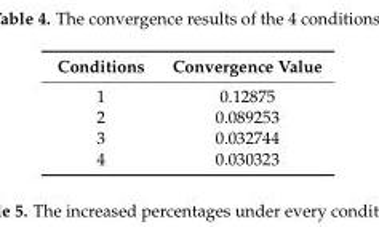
<table><thead><tr><td>Conditions</td><td>Convergence Value</td></tr></thead><tbody><tr><td>1</td><td>0.12875</td></tr><tr><td>2</td><td>0.089253</td></tr><tr><td>3</td><td>0.032744</td></tr><tr><td>4</td><td>0.030323</td></tr></tbody></table>